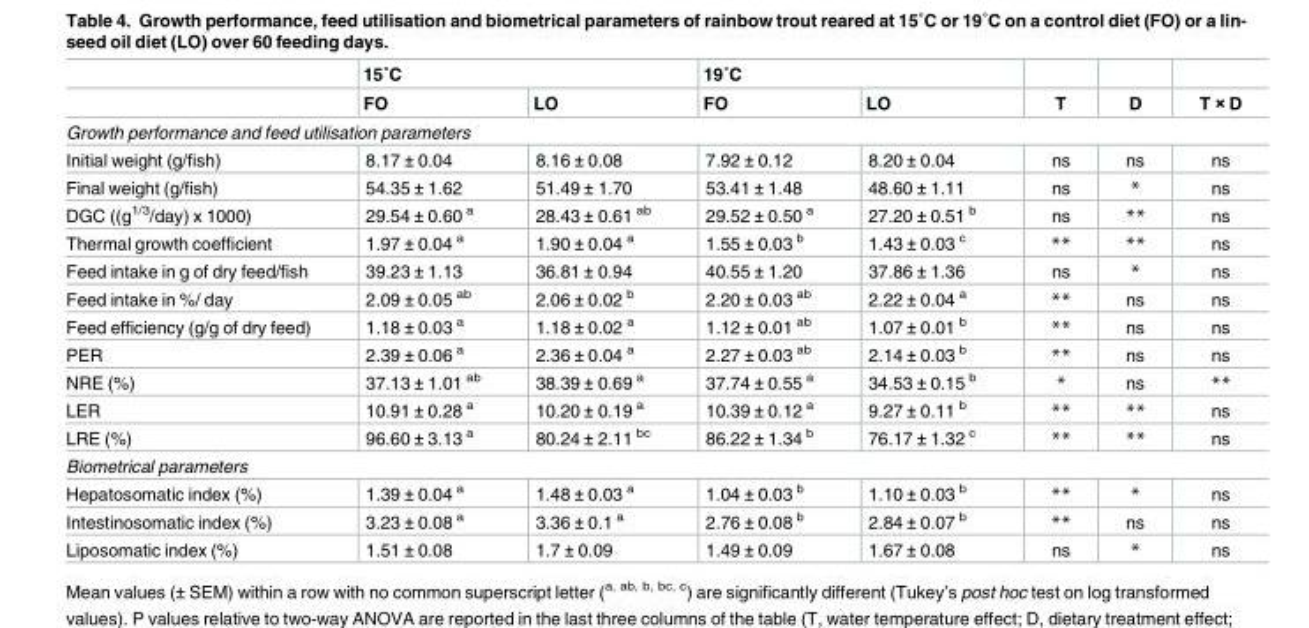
<table><thead><tr><td rowspan="2"></td><td colspan="2">15˚C</td><td colspan="2">19˚C</td><td rowspan="2">T</td><td rowspan="2">D</td><td rowspan="2">T × D</td></tr><tr><td>FO</td><td>LO</td><td>FO</td><td>LO</td></tr></thead><tbody><tr><td colspan="8">Growth performance and feed utilisation parameters</td></tr><tr><td>Initial weight (g/fish)</td><td>8.17 ± 0.04</td><td>8.16 ± 0.08</td><td>7.92 ± 0.12</td><td>8.20 ± 0.04</td><td>ns</td><td>ns</td><td>ns</td></tr><tr><td>Final weight (g/fish)</td><td>54.35 ± 1.62</td><td>51.49 ± 1.70</td><td>53.41 ± 1.48</td><td>48.60 ± 1.11</td><td>ns</td><td>*</td><td>ns</td></tr><tr><td>DGC ((g<sup>1/3</sup>/day) x 1000)</td><td>29.54 ± 0.60 <sup>a</sup></td><td>28.43 ± 0.61 <sup>ab</sup></td><td>29.52 ± 0.50 <sup>a</sup></td><td>27.20 ± 0.51 <sup>b</sup></td><td>ns</td><td>**</td><td>ns</td></tr><tr><td>Thermal growth coefficient</td><td>1.97 ± 0.04 <sup>a</sup></td><td>1.90 ± 0.04 <sup>a</sup></td><td>1.55 ± 0.03 <sup>b</sup></td><td>1.43 ± 0.03 <sup>c</sup></td><td>**</td><td>**</td><td>ns</td></tr><tr><td>Feed intake in g of dry feed/fish</td><td>39.23 ± 1.13</td><td>36.81 ± 0.94</td><td>40.55 ± 1.20</td><td>37.86 ± 1.36</td><td>ns</td><td>*</td><td>ns</td></tr><tr><td>Feed intake in %/ day</td><td>2.09 ± 0.05 <sup>ab</sup></td><td>2.06 ± 0.02 <sup>b</sup></td><td>2.20 ± 0.03 <sup>ab</sup></td><td>2.22 ± 0.04 <sup>a</sup></td><td>**</td><td>ns</td><td>ns</td></tr><tr><td>Feed efficiency (g/g of dry feed)</td><td>1.18 ± 0.03 <sup>a</sup></td><td>1.18 ± 0.02 <sup>a</sup></td><td>1.12 ± 0.01 <sup>ab</sup></td><td>1.07 ± 0.01 <sup>b</sup></td><td>**</td><td>ns</td><td>ns</td></tr><tr><td>PER</td><td>2.39 ± 0.06 <sup>a</sup></td><td>2.36 ± 0.04 <sup>a</sup></td><td>2.27 ± 0.03 <sup>ab</sup></td><td>2.14 ± 0.03 <sup>b</sup></td><td>**</td><td>ns</td><td>ns</td></tr><tr><td>NRE (%)</td><td>37.13 ± 1.01 <sup>ab</sup></td><td>38.39 ± 0.69 <sup>a</sup></td><td>37.74 ± 0.55 <sup>a</sup></td><td>34.53 ± 0.15 <sup>b</sup></td><td>*</td><td>ns</td><td>**</td></tr><tr><td>LER</td><td>10.91 ± 0.28 <sup>a</sup></td><td>10.20 ± 0.19 <sup>a</sup></td><td>10.39 ± 0.12 <sup>a</sup></td><td>9.27 ± 0.11 <sup>b</sup></td><td>**</td><td>**</td><td>ns</td></tr><tr><td>LRE (%)</td><td>96.60 ± 3.13 <sup>a</sup></td><td>80.24 ± 2.11 <sup>bc</sup></td><td>86.22 ± 1.34 <sup>b</sup></td><td>76.17 ± 1.32 <sup>c</sup></td><td>**</td><td>**</td><td>ns</td></tr><tr><td colspan="8">Biometrical parameters</td></tr><tr><td>Hepatosomatic index (%)</td><td>1.39 ± 0.04 <sup>a</sup></td><td>1.48 ± 0.03 <sup>a</sup></td><td>1.04 ± 0.03 <sup>b</sup></td><td>1.10 ± 0.03 <sup>b</sup></td><td>**</td><td>*</td><td>ns</td></tr><tr><td>Intestinosomatic index (%)</td><td>3.23 ± 0.08 <sup>a</sup></td><td>3.36 ± 0.1 <sup>a</sup></td><td>2.76 ± 0.08 <sup>b</sup></td><td>2.84 ± 0.07 <sup>b</sup></td><td>**</td><td>ns</td><td>ns</td></tr><tr><td>Liposomatic index (%)</td><td>1.51 ± 0.08</td><td>1.7 ± 0.09</td><td>1.49 ± 0.09</td><td>1.67 ± 0.08</td><td>ns</td><td>*</td><td>ns</td></tr></tbody></table>